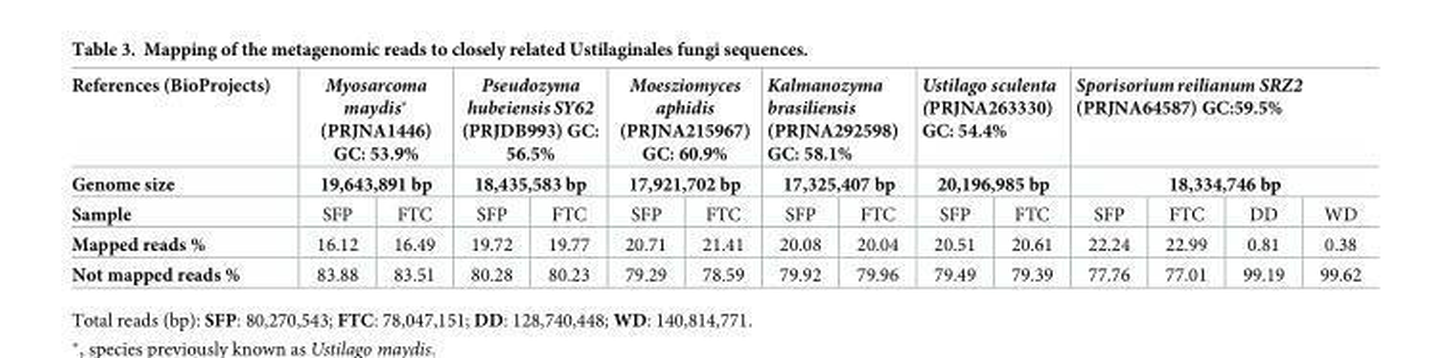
<table><thead><tr><td rowspan="3">References (BioProjects) Genome size Sample</td><td rowspan="2" colspan="2">Myosarcoma maydis* (PRJNA1446) GC: 53.9% 19,643,891 bp</td><td rowspan="2" colspan="2">Pseudozyma hubeiensis SY62 (PRJDB993) GC: 56.5% 18,435,583 bp</td><td rowspan="2" colspan="2">Moesziomyces aphidis (PRJNA215967) GC: 60.9% 17,921,702 bp</td><td rowspan="2" colspan="2">Kalmanozyma brasiliensis (PRJNA292598) GC: 58.1% 17,325,407 bp</td><td rowspan="2" colspan="2">Ustilago sculenta (PRJNA263330) GC: 54.4% 20,196,985 bp</td><td rowspan="2" colspan="4">Sporisoriumreilianum SRZ2 (PRJNA64587) GC:59.5% 18,334,746 bp</td></tr><tr></tr><tr><td>SFP</td><td>FTC</td><td>SFP</td><td>FTC</td><td>SFP</td><td>FTC</td><td>SFP</td><td>FTC</td><td>SFP</td><td>FTC</td><td>SFP</td><td>FTC</td><td>DD</td><td>WD</td></tr></thead><tbody><tr><td>Mapped reads %</td><td>16.12</td><td>16.49</td><td>19.72</td><td>19.77</td><td>20.71</td><td>21.41</td><td>20.08</td><td>20.04</td><td>20.51</td><td>20.61</td><td>22.24</td><td>22.99</td><td>0.81</td><td>0.38</td></tr><tr><td>Not mapped reads %</td><td>83.88</td><td>83.51</td><td>80.28</td><td>80.23</td><td>79.29</td><td>78.59</td><td>79.92</td><td>79.96</td><td>79.49</td><td>79.39</td><td>77.76</td><td>77.01</td><td>99.19</td><td>99.62</td></tr></tbody></table>